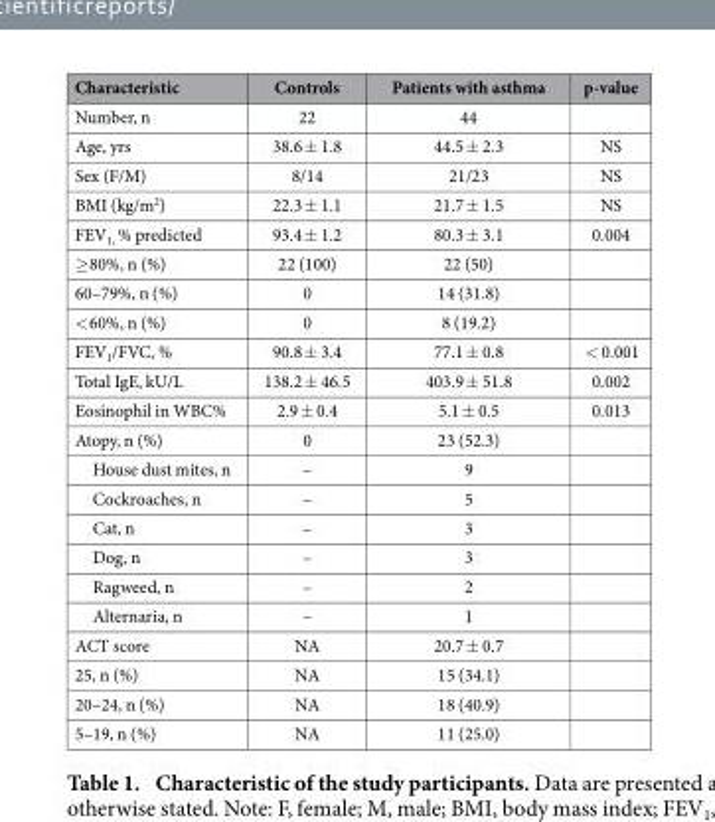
<table><thead><tr><td>Characteristic</td><td>Controls</td><td>Patients with asthma</td><td>p-value</td></tr></thead><tbody><tr><td>Number, n</td><td>22</td><td>44</td><td></td></tr><tr><td>Age, yrs</td><td>38.6 ± 1.8</td><td>44.5 ± 2.3</td><td>NS</td></tr><tr><td>Sex (F/M)</td><td>8/14</td><td>21/23</td><td>NS</td></tr><tr><td>BMI (kg/m<sup>2</sup>)</td><td>22.3 ± 1.1</td><td>21.7 ± 1.5</td><td>NS</td></tr><tr><td>FEV<sub>1,</sub> % predicted</td><td>93.4 ± 1.2</td><td>80.3 ± 3.1</td><td>0.004</td></tr><tr><td>≥ 80%, n (%)</td><td>22 (100)</td><td>22 (50)</td><td></td></tr><tr><td>60–79%, n (%)</td><td>0</td><td>14 (31.8)</td><td></td></tr><tr><td>&lt; 60%, n (%)</td><td>0</td><td>8 (19.2)</td><td></td></tr><tr><td>FEV<sub>1</sub>/FVC, %</td><td>90.8 ± 3.4</td><td>77.1 ± 0.8</td><td>&lt; 0.001</td></tr><tr><td>Total IgE, kU/L</td><td>138.2 ± 46.5</td><td>403.9 ± 51.8</td><td>0.002</td></tr><tr><td>Eosinophil in WBC%</td><td>2.9 ± 0.4</td><td>5.1 ± 0.5</td><td>0.013</td></tr><tr><td>Atopy, n (%)</td><td>0</td><td>23 (52.3)</td><td></td></tr><tr><td>House dust mites, n</td><td>–</td><td>9</td><td></td></tr><tr><td>Cockroaches, n</td><td>–</td><td>5</td><td></td></tr><tr><td>Cat, n</td><td>–</td><td>3</td><td></td></tr><tr><td>Dog, n</td><td>–</td><td>3</td><td></td></tr><tr><td>Ragweed, n</td><td>–</td><td>2</td><td></td></tr><tr><td>Alternaria, n</td><td>–</td><td>1</td><td></td></tr><tr><td>ACT score</td><td>NA</td><td>20.7 ± 0.7</td><td></td></tr><tr><td>25, n (%)</td><td>NA</td><td>15 (34.1)</td><td></td></tr><tr><td>20–24, n (%)</td><td>NA</td><td>18 (40.9)</td><td></td></tr><tr><td>5–19, n (%)</td><td>NA</td><td>11 (25.0)</td><td></td></tr></tbody></table>